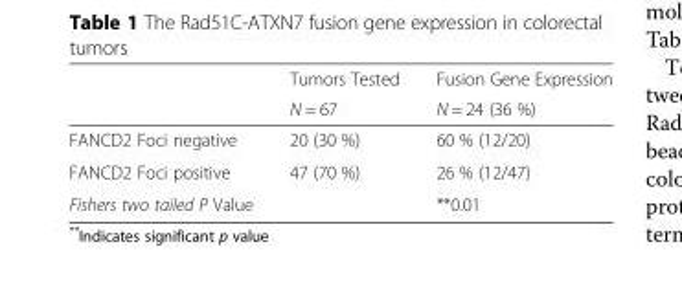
<table><thead><tr><td rowspan="2"></td><td rowspan="2">Tumors Tested N = 67</td><td rowspan="2">Fusion Gene Expression N = 24 (36 %)</td></tr><tr></tr></thead><tbody><tr><td>FANCD2 Foci negative</td><td>20 (30 %)</td><td>60 % (12/20)</td></tr><tr><td>FANCD2 Foci positive</td><td>47 (70 %)</td><td>26 % (12/47)</td></tr><tr><td>Fishers two tailed P Value</td><td></td><td>**0.01</td></tr></tbody></table>